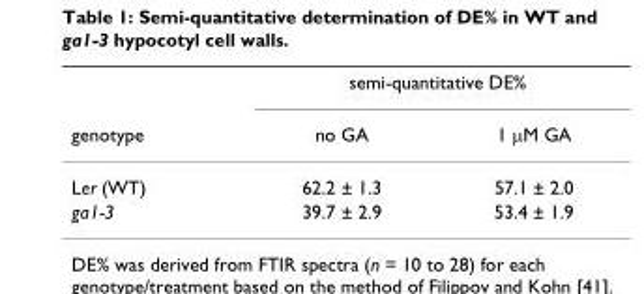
<table><thead><tr><td rowspan="2">genotype</td><td colspan="2">semi-quantitative DE%</td></tr><tr><td>no GA</td><td>1 µM GA</td></tr></thead><tbody><tr><td>Ler (WT)</td><td>62.2 ± 1.3</td><td>57.1 ± 2.0</td></tr><tr><td>ga1-3</td><td>39.7 ± 2.9</td><td>53.4 ± 1.9</td></tr></tbody></table>